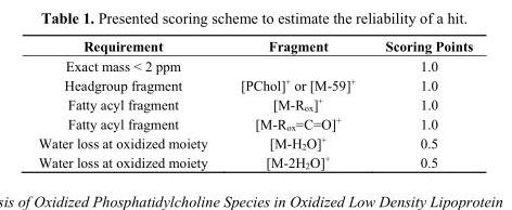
<table><thead><tr><td>Requirement</td><td>Fragment</td><td>Scoring Points</td></tr></thead><tbody><tr><td>Exact mass &lt; 2 ppm</td><td></td><td>1.0</td></tr><tr><td>Headgroup fragment</td><td>[PChol]<sup>+</sup> or [M-59]<sup>+</sup></td><td>1.0</td></tr><tr><td>Fatty acyl fragment</td><td>[M-R<sub>ox</sub>]<sup>+</sup></td><td>1.0</td></tr><tr><td>Fatty acyl fragment</td><td>[M-R<sub>ox</sub>=C=O]<sup>+</sup></td><td>1.0</td></tr><tr><td>Water loss at oxidized moiety</td><td>[M-H<sub>2</sub>O]<sup>+</sup></td><td>0.5</td></tr><tr><td>Water loss at oxidized moiety</td><td>[M-2H<sub>2</sub>O]<sup>+</sup></td><td>0.5</td></tr></tbody></table>